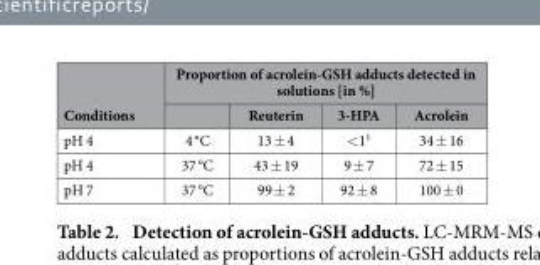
<table><thead><tr><td rowspan="2">Conditions</td><td colspan="4">Proportion of acrolein-GSH adducts detected in solutions [in %]</td></tr><tr><td></td><td>Reuterin</td><td>3-HPA</td><td>Acrolein</td></tr></thead><tbody><tr><td>pH 4</td><td>4 °C</td><td>13 ± 4</td><td>&lt; 1<sup>1</sup></td><td>34 ± 16</td></tr><tr><td>pH 4</td><td>37 °C</td><td>43 ± 19</td><td>9 ± 7</td><td>72 ± 15</td></tr><tr><td>pH 7</td><td>37 °C</td><td>99 ± 2</td><td>92 ± 8</td><td>100 ± 0</td></tr></tbody></table>